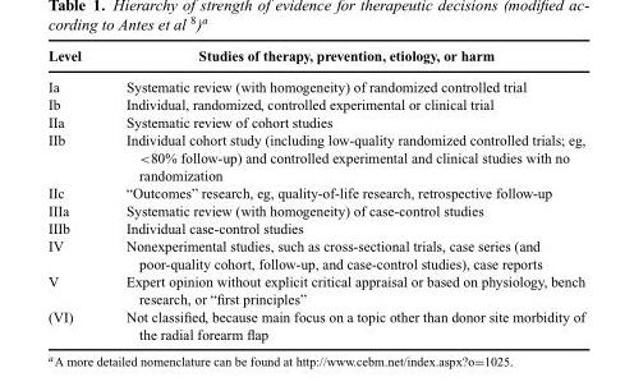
<table><thead><tr><td>Level</td><td>Studies of therapy, prevention, etiology, or harm</td></tr></thead><tbody><tr><td>Ia</td><td>Systematic review (with homogeneity) of randomized controlled trial</td></tr><tr><td>Ib</td><td>Individual, randomized, controlled experimental or clinical trial</td></tr><tr><td>IIa</td><td>Systematic review of cohort studies</td></tr><tr><td>IIb</td><td>Individual cohort study (including low-quality randomized controlled trials; eg, &lt;80% follow-up) and controlled experimental and clinical studies with no randomization</td></tr><tr><td>IIc</td><td>“Outcomes” research, eg, quality-of-life research, retrospective follow-up</td></tr><tr><td>IIIa</td><td>Systematic review (with homogeneity) of case-control studies</td></tr><tr><td>IIIb</td><td>Individual case-control studies</td></tr><tr><td>IV</td><td>Nonexperimental studies, such as cross-sectional trials, case series (and poor-quality cohort, follow-up, and case-control studies), case reports</td></tr><tr><td>V</td><td>Expert opinion without explicit critical appraisal or based on physiology, bench research, or “first principles”</td></tr><tr><td>(VI)</td><td>Not classified, because main focus on a topic other than donor site morbidity of the radial forearm flap</td></tr></tbody></table>